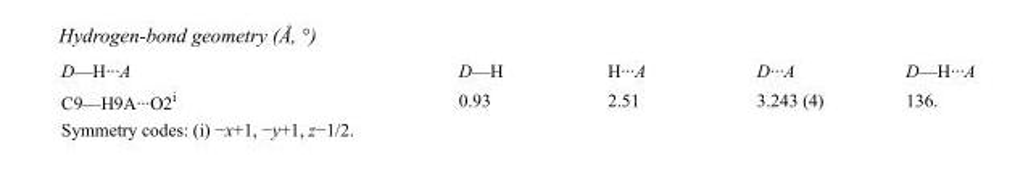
<table><tbody><tr><td>D—H···A</td><td>D—H</td><td>H···A</td><td>D···A</td><td>D—H···A</td></tr><tr><td>C9—H9A···O2<sup>i</sup></td><td>0.93</td><td>2.51</td><td>3.243 (4)</td><td>136.</td></tr></tbody></table>